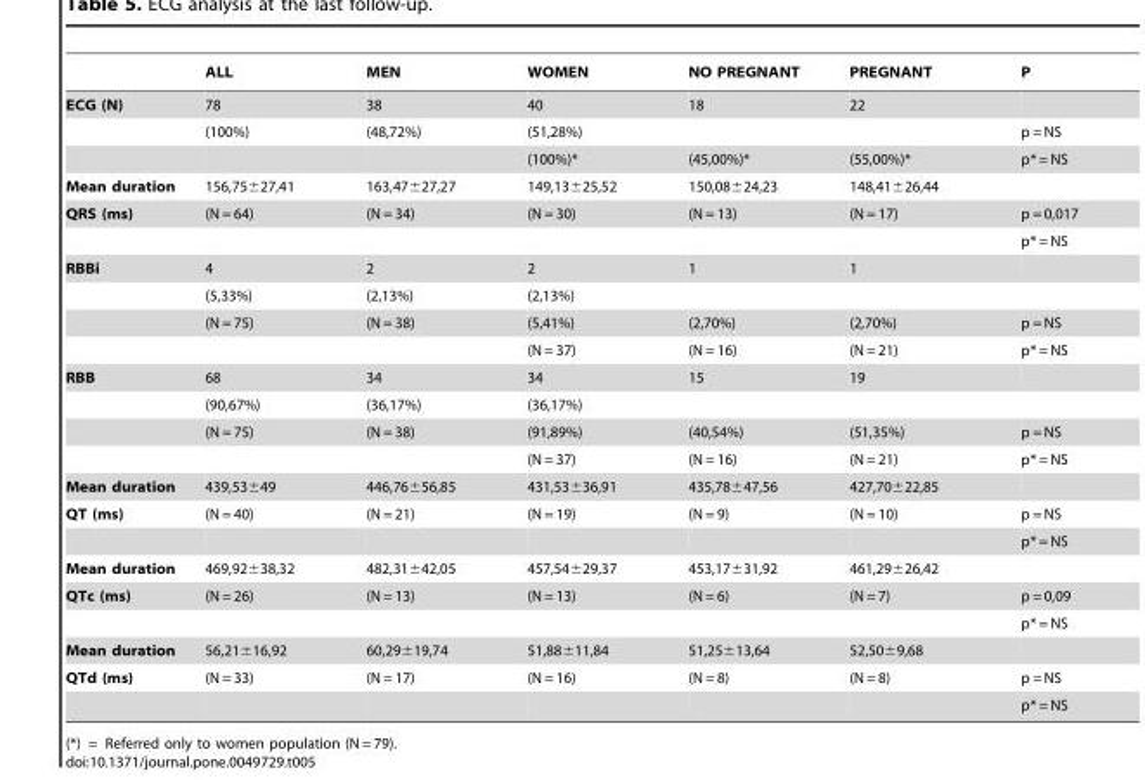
<table><thead><tr><td></td><td>ALL</td><td>MEN</td><td>WOMEN</td><td>NO PREGNANT</td><td>PREGNANT</td><td>P</td></tr></thead><tbody><tr><td rowspan="3">ECG (N)</td><td>78</td><td>38</td><td>40</td><td>18</td><td>22</td><td></td></tr><tr><td>(100%)</td><td>(48,72%)</td><td>(51,28%)</td><td></td><td></td><td>p = NS</td></tr><tr><td></td><td></td><td>(100%)*</td><td>(45,00%)*</td><td>(55,00%)*</td><td>p* = NS</td></tr><tr><td>Mean duration</td><td>156,75±27,41</td><td>163,47±27,27</td><td>149,13±25,52</td><td>150,08±24,23</td><td>148,41±26,44</td><td></td></tr><tr><td rowspan="2">QRS (ms)</td><td>(N = 64)</td><td>(N = 34)</td><td>(N = 30)</td><td>(N = 13)</td><td>(N = 17)</td><td>p = 0,017</td></tr><tr><td></td><td></td><td></td><td></td><td></td><td>p* = NS</td></tr><tr><td rowspan="4">RBBi</td><td>4</td><td>2</td><td>2</td><td>1</td><td>1</td><td></td></tr><tr><td>(5,33%)</td><td>(2,13%)</td><td>(2,13%)</td><td></td><td></td><td></td></tr><tr><td>(N = 75)</td><td>(N = 38)</td><td>(5,41%)</td><td>(2,70%)</td><td>(2,70%)</td><td>p = NS</td></tr><tr><td></td><td></td><td>(N = 37)</td><td>(N = 16)</td><td>(N = 21)</td><td>p* = NS</td></tr><tr><td rowspan="4">RBB</td><td>68</td><td>34</td><td>34</td><td>15</td><td>19</td><td></td></tr><tr><td>(90,67%)</td><td>(36,17%)</td><td>(36,17%)</td><td></td><td></td><td></td></tr><tr><td>(N = 75)</td><td>(N = 38)</td><td>(91,89%)</td><td>(40,54%)</td><td>(51,35%)</td><td>p = NS</td></tr><tr><td></td><td></td><td>(N = 37)</td><td>(N = 16)</td><td>(N = 21)</td><td>p* = NS</td></tr><tr><td>Mean duration</td><td>439,53±49</td><td>446,76±56,85</td><td>431,53±36,91</td><td>435,78±47,56</td><td>427,70±22,85</td><td></td></tr><tr><td rowspan="2">QT (ms)</td><td>(N = 40)</td><td>(N = 21)</td><td>(N = 19)</td><td>(N = 9)</td><td>(N = 10)</td><td>p = NS</td></tr><tr><td></td><td></td><td></td><td></td><td></td><td>p* = NS</td></tr><tr><td>Mean duration</td><td>469,92±38,32</td><td>482,31±42,05</td><td>457,54±29,37</td><td>453,17±31,92</td><td>461,29±26,42</td><td></td></tr><tr><td rowspan="2">QTc (ms)</td><td>(N = 26)</td><td>(N = 13)</td><td>(N = 13)</td><td>(N = 6)</td><td>(N = 7)</td><td>p = 0,09</td></tr><tr><td></td><td></td><td></td><td></td><td></td><td>p* = NS</td></tr><tr><td>Mean duration</td><td>56,21±16,92</td><td>60,29±19,74</td><td>51,88±11,84</td><td>51,25±13,64</td><td>52,50±9,68</td><td></td></tr><tr><td rowspan="2">QTd (ms)</td><td>(N = 33)</td><td>(N = 17)</td><td>(N = 16)</td><td>(N = 8)</td><td>(N = 8)</td><td>p = NS</td></tr><tr><td></td><td></td><td></td><td></td><td></td><td>p* = NS</td></tr></tbody></table>